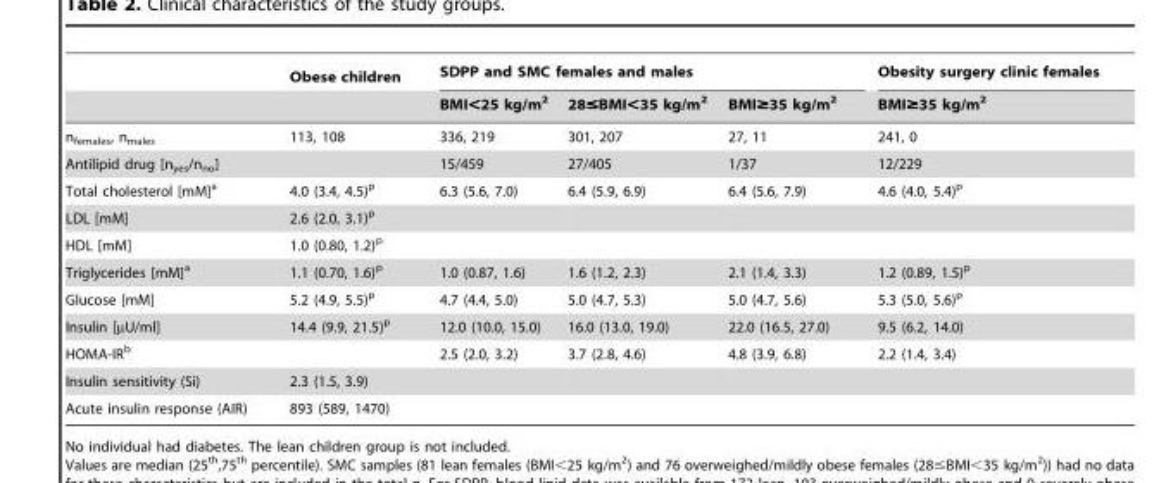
<table><thead><tr><td rowspan="2"></td><td rowspan="2">Obese children</td><td colspan="3">SDPP and SMC females and males</td><td rowspan="2">Obesity surgery clinic females BMI≥35 kg/m<sup>2</sup></td></tr><tr><td>BMI&lt;25 kg/m<sup>2</sup></td><td>28≤BMI&lt;35 kg/m<sup>2</sup></td><td>BMI≥35 kg/m<sup>2</sup></td></tr></thead><tbody><tr><td>n<sub>females</sub>, n<sub>males</sub></td><td>113, 108</td><td>336, 219</td><td>301, 207</td><td>27, 11</td><td>241, 0</td></tr><tr><td>Antilipid drug [n<sub>yes</sub>/n<sub>no</sub>]</td><td></td><td>15/459</td><td>27/405</td><td>1/37</td><td>12/229</td></tr><tr><td>Total cholesterol [mM]<sup>a</sup></td><td>4.0 (3.4, 4.5)<sup>p</sup></td><td>6.3 (5.6, 7.0)</td><td>6.4 (5.9, 6.9)</td><td>6.4 (5.6, 7.9)</td><td>4.6 (4.0, 5.4)<sup>p</sup></td></tr><tr><td>LDL [mM]</td><td>2.6 (2.0, 3.1)<sup>p</sup></td><td></td><td></td><td></td><td></td></tr><tr><td>HDL [mM]</td><td>1.0 (0.80, 1.2)<sup>p</sup></td><td></td><td></td><td></td><td></td></tr><tr><td>Triglycerides [mM]<sup>a</sup></td><td>1.1 (0.70, 1.6)<sup>p</sup></td><td>1.0 (0.87, 1.6)</td><td>1.6 (1.2, 2.3)</td><td>2.1 (1.4, 3.3)</td><td>1.2 (0.89, 1.5)<sup>p</sup></td></tr><tr><td>Glucose [mM]</td><td>5.2 (4.9, 5.5)<sup>p</sup></td><td>4.7 (4.4, 5.0)</td><td>5.0 (4.7, 5.3)</td><td>5.0 (4.7, 5.6)</td><td>5.3 (5.0, 5.6)<sup>p</sup></td></tr><tr><td>Insulin [µU/ml]</td><td>14.4 (9.9, 21.5)<sup>p</sup></td><td>12.0 (10.0, 15.0)</td><td>16.0 (13.0, 19.0)</td><td>22.0 (16.5, 27.0)</td><td>9.5 (6.2, 14.0)</td></tr><tr><td>HOMA-IR<sup>b</sup></td><td></td><td>2.5 (2.0, 3.2)</td><td>3.7 (2.8, 4.6)</td><td>4.8 (3.9, 6.8)</td><td>2.2 (1.4, 3.4)</td></tr><tr><td>Insulin sensitivity (Si)</td><td>2.3 (1.5, 3.9)</td><td></td><td></td><td></td><td></td></tr><tr><td>Acute insulin response (AIR)</td><td>893 (589, 1470)</td><td></td><td></td><td></td><td></td></tr></tbody></table>